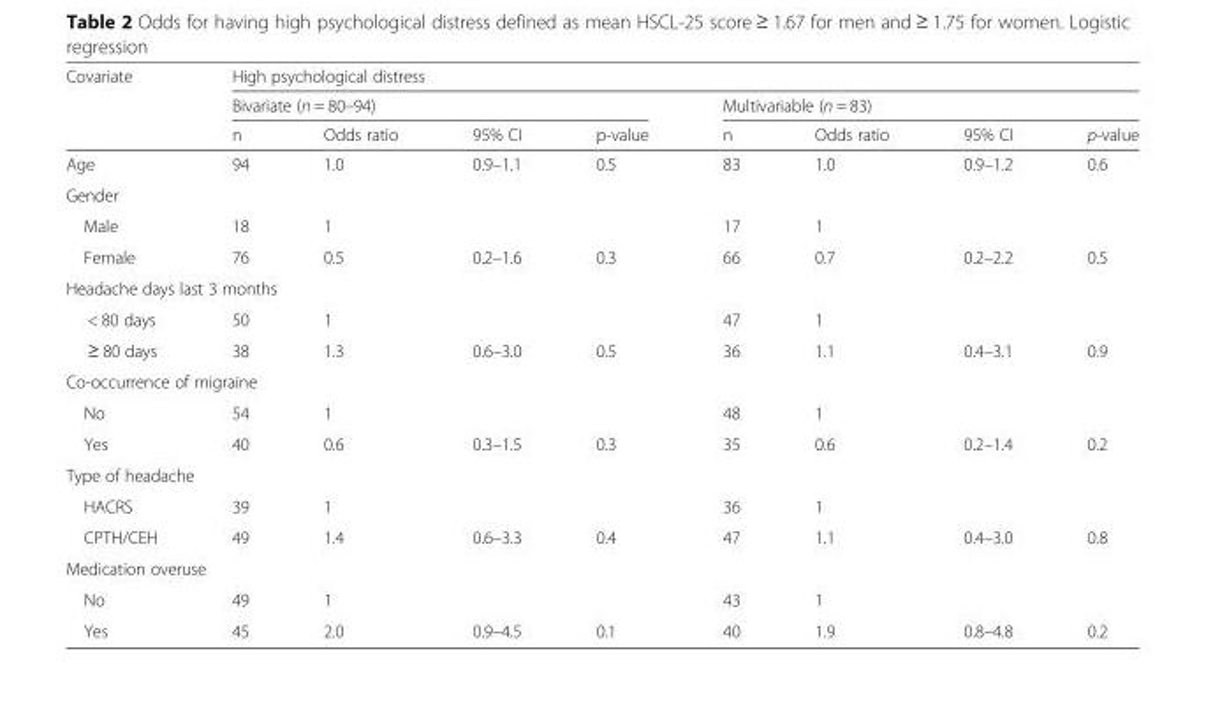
<table><thead><tr><td rowspan="3">Covariate</td><td colspan="8">High psychological distress</td></tr><tr><td colspan="4">Bivariate (n = 80–94)</td><td colspan="4">Multivariable (n = 83)</td></tr><tr><td>n</td><td>Odds ratio</td><td>95% CI</td><td>p-value</td><td>n</td><td>Odds ratio</td><td>95% CI</td><td>p-value</td></tr></thead><tbody><tr><td>Age</td><td>94</td><td>1.0</td><td>0.9–1.1</td><td>0.5</td><td>83</td><td>1.0</td><td>0.9–1.2</td><td>0.6</td></tr><tr><td colspan="9">Gender</td></tr><tr><td>Male</td><td>18</td><td>1</td><td></td><td></td><td>17</td><td>1</td><td></td><td></td></tr><tr><td>Female</td><td>76</td><td>0.5</td><td>0.2–1.6</td><td>0.3</td><td>66</td><td>0.7</td><td>0.2–2.2</td><td>0.5</td></tr><tr><td colspan="9">Headache days last 3 months</td></tr><tr><td>&lt; 80 days</td><td>50</td><td>1</td><td></td><td></td><td>47</td><td>1</td><td></td><td></td></tr><tr><td>≥ 80 days</td><td>38</td><td>1.3</td><td>0.6–3.0</td><td>0.5</td><td>36</td><td>1.1</td><td>0.4–3.1</td><td>0.9</td></tr><tr><td colspan="9">Co-occurrence of migraine</td></tr><tr><td>No</td><td>54</td><td>1</td><td></td><td></td><td>48</td><td>1</td><td></td><td></td></tr><tr><td>Yes</td><td>40</td><td>0.6</td><td>0.3–1.5</td><td>0.3</td><td>35</td><td>0.6</td><td>0.2–1.4</td><td>0.2</td></tr><tr><td colspan="9">Type of headache</td></tr><tr><td>HACRS</td><td>39</td><td>1</td><td></td><td></td><td>36</td><td>1</td><td></td><td></td></tr><tr><td>CPTH/CEH</td><td>49</td><td>1.4</td><td>0.6–3.3</td><td>0.4</td><td>47</td><td>1.1</td><td>0.4–3.0</td><td>0.8</td></tr><tr><td colspan="9">Medication overuse</td></tr><tr><td>No</td><td>49</td><td>1</td><td></td><td></td><td>43</td><td>1</td><td></td><td></td></tr><tr><td>Yes</td><td>45</td><td>2.0</td><td>0.9–4.5</td><td>0.1</td><td>40</td><td>1.9</td><td>0.8–4.8</td><td>0.2</td></tr></tbody></table>